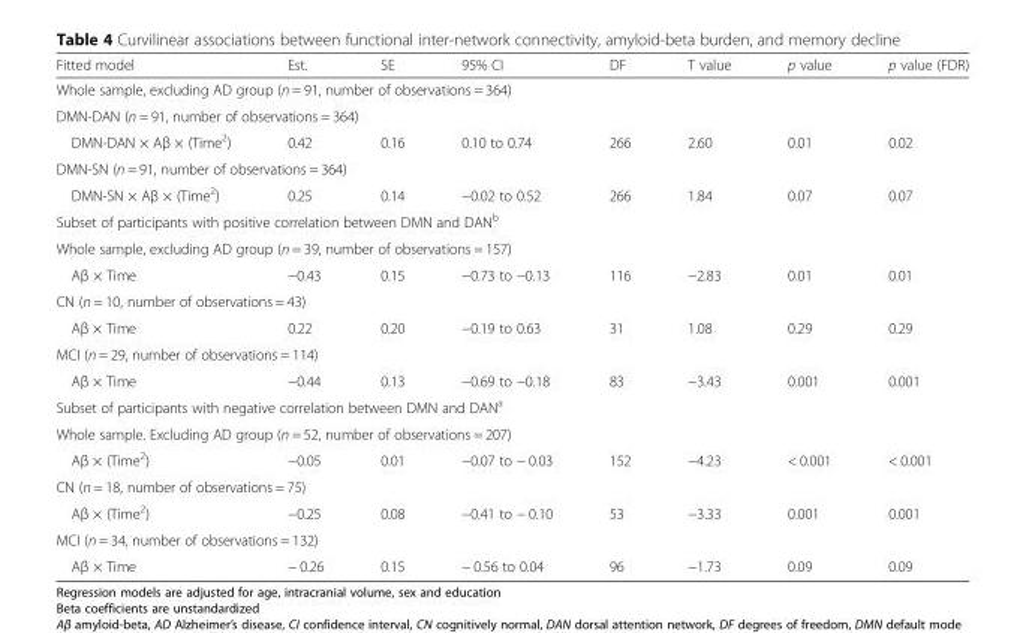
<table><thead><tr><td>Fitted model</td><td>Est.</td><td>SE</td><td>95% CI</td><td>DF</td><td>T value</td><td>p value</td><td>p value (FDR)</td></tr></thead><tbody><tr><td colspan="8">Whole sample, excluding AD group (n = 91, number of observations = 364)</td></tr><tr><td colspan="8">DMN-DAN (n = 91, number of observations = 364)</td></tr><tr><td>DMN-DAN × Aβ × (Time<sup>2</sup>)</td><td>0.42</td><td>0.16</td><td>0.10 to 0.74</td><td>266</td><td>2.60</td><td>0.01</td><td>0.02</td></tr><tr><td colspan="8">DMN-SN (n = 91, number of observations = 364)</td></tr><tr><td>DMN-SN × Aβ × (Time<sup>2</sup>)</td><td>0.25</td><td>0.14</td><td>−0.02 to 0.52</td><td>266</td><td>1.84</td><td>0.07</td><td>0.07</td></tr><tr><td colspan="8">Subset of participants with positive correlation between DMN and DAN<sup>b</sup></td></tr><tr><td colspan="8">Whole sample, excluding AD group (n = 39, number of observations = 157)</td></tr><tr><td>Aβ × Time</td><td>−0.43</td><td>0.15</td><td>−0.73 to −0.13</td><td>116</td><td>−2.83</td><td>0.01</td><td>0.01</td></tr><tr><td colspan="8">CN (n = 10, number of observations = 43)</td></tr><tr><td>Aβ × Time</td><td>0.22</td><td>0.20</td><td>−0.19 to 0.63</td><td>31</td><td>1.08</td><td>0.29</td><td>0.29</td></tr><tr><td colspan="8">MCI (n = 29, number of observations = 114)</td></tr><tr><td>Aβ × Time</td><td>−0.44</td><td>0.13</td><td>−0.69 to −0.18</td><td>83</td><td>−3.43</td><td>0.001</td><td>0.001</td></tr><tr><td colspan="8">Subset of participants with negative correlation between DMN and DAN<sup>a</sup></td></tr><tr><td colspan="8">Whole sample. Excluding AD group (n = 52, number of observations = 207)</td></tr><tr><td>Aβ × (Time<sup>2</sup>)</td><td>−0.05</td><td>0.01</td><td>−0.07 to − 0.03</td><td>152</td><td>−4.23</td><td>&lt; 0.001</td><td>&lt; 0.001</td></tr><tr><td colspan="8">CN (n = 18, number of observations = 75)</td></tr><tr><td>Aβ × (Time<sup>2</sup>)</td><td>−0.25</td><td>0.08</td><td>−0.41 to − 0.10</td><td>53</td><td>−3.33</td><td>0.001</td><td>0.001</td></tr><tr><td colspan="8">MCI (n = 34, number of observations = 132)</td></tr><tr><td>Aβ × Time</td><td>− 0.26</td><td>0.15</td><td>− 0.56 to 0.04</td><td>96</td><td>−1.73</td><td>0.09</td><td>0.09</td></tr></tbody></table>